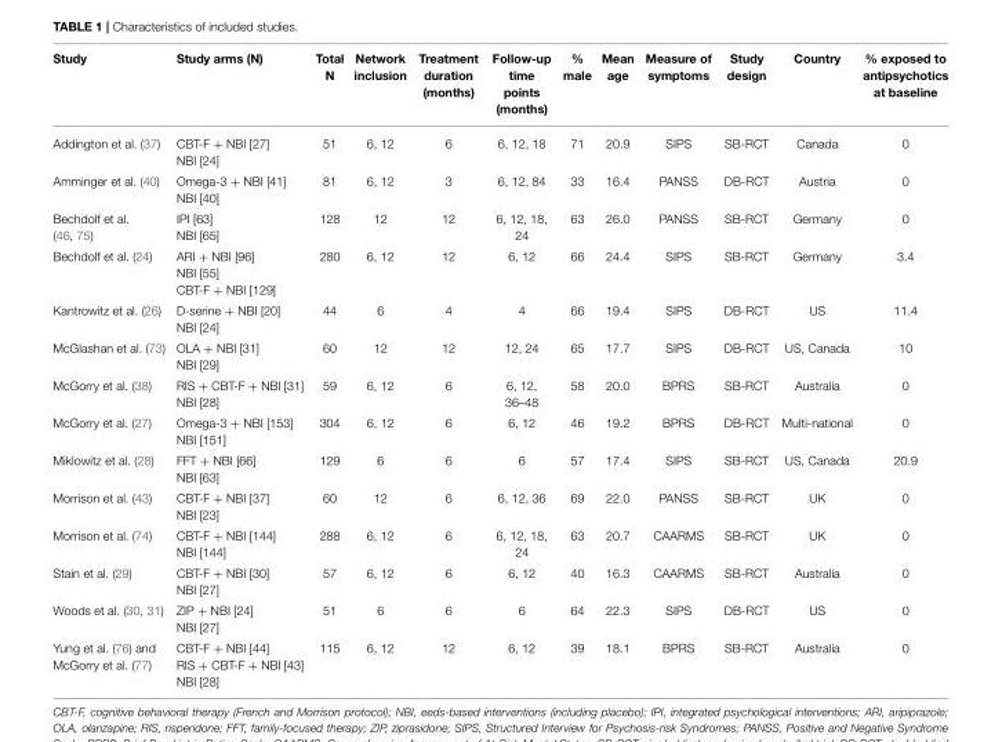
<table><thead><tr><td>Study</td><td>Study arms (N)</td><td>Total N</td><td>Network inclusion</td><td>Treatment duration (months)</td><td>Follow-up time points (months)</td><td>% male</td><td>Mean age</td><td>Measure of symptoms</td><td>Study design</td><td>Country</td><td>% exposed to antipsychotics at baseline</td></tr></thead><tbody><tr><td>Addington et al. (37)</td><td>CBT-F + NBI [27] NBI [24]</td><td>51</td><td>6, 12</td><td>6</td><td>6, 12, 18</td><td>71</td><td>20.9</td><td>SIPS</td><td>SB-RCT</td><td>Canada</td><td>0</td></tr><tr><td>Amminger et al. (40)</td><td>Omega-3 + NBI [41] NBI [40]</td><td>81</td><td>6, 12</td><td>3</td><td>6, 12, 84</td><td>33</td><td>16.4</td><td>PANSS</td><td>DB-RCT</td><td>Austria</td><td>0</td></tr><tr><td>Bechdolf et al. (46, 75)</td><td>IPI [63] NBI [65]</td><td>128</td><td>12</td><td>12</td><td>6, 12, 18, 24</td><td>63</td><td>26.0</td><td>PANSS</td><td>SB-RCT</td><td>Germany</td><td>0</td></tr><tr><td>Bechdolf et al. (24)</td><td>ARI + NBI [96] NBI [55] CBT-F + NBI [129]</td><td>280</td><td>6, 12</td><td>12</td><td>6, 12</td><td>66</td><td>24.4</td><td>SIPS</td><td>SB-RCT</td><td>Germany</td><td>3.4</td></tr><tr><td>Kantrowitz et al. (26)</td><td>D-serine + NBI [20] NBI [24]</td><td>44</td><td>6</td><td>4</td><td>4</td><td>66</td><td>19.4</td><td>SIPS</td><td>DB-RCT</td><td>US</td><td>11.4</td></tr><tr><td>McGlashan et al. (73)</td><td>OLA + NBI [31] NBI [29]</td><td>60</td><td>12</td><td>12</td><td>12, 24</td><td>65</td><td>17.7</td><td>SIPS</td><td>DB-RCT</td><td>US, Canada</td><td>10</td></tr><tr><td>McGorry et al. (38)</td><td>RIS + CBT-F + NBI [31] NBI [28]</td><td>59</td><td>6, 12</td><td>6</td><td>6, 12, 36–48</td><td>58</td><td>20.0</td><td>BPRS</td><td>SB-RCT</td><td>Australia</td><td>0</td></tr><tr><td>McGorry et al. (27)</td><td>Omega-3 + NBI [153] NBI [151]</td><td>304</td><td>6, 12</td><td>6</td><td>6, 12</td><td>46</td><td>19.2</td><td>BPRS</td><td>DB-RCT</td><td>Multi-national</td><td>0</td></tr><tr><td>Miklowitz et al. (28)</td><td>FFT + NBI [66] NBI [63]</td><td>129</td><td>6</td><td>6</td><td>6</td><td>57</td><td>17.4</td><td>SIPS</td><td>SB-RCT</td><td>US, Canada</td><td>20.9</td></tr><tr><td>Morrison et al. (43)</td><td>CBT-F + NBI [37] NBI [23]</td><td>60</td><td>12</td><td>6</td><td>6, 12, 36</td><td>69</td><td>22.0</td><td>PANSS</td><td>SB-RCT</td><td>UK</td><td>0</td></tr><tr><td>Morrison et al. (74)</td><td>CBT-F + NBI [144] NBI [144]</td><td>288</td><td>6, 12</td><td>6</td><td>6, 12, 18, 24</td><td>63</td><td>20.7</td><td>CAARMS</td><td>SB-RCT</td><td>UK</td><td>0</td></tr><tr><td>Stain et al. (29)</td><td>CBT-F + NBI [30] NBI [27]</td><td>57</td><td>6, 12</td><td>6</td><td>6, 12</td><td>40</td><td>16.3</td><td>CAARMS</td><td>SB-RCT</td><td>Australia</td><td>0</td></tr><tr><td>Woods et al. (30, 31)</td><td>ZIP + NBI [24] NBI [27]</td><td>51</td><td>6</td><td>6</td><td>6</td><td>64</td><td>22.3</td><td>SIPS</td><td>DB-RCT</td><td>US</td><td>0</td></tr><tr><td>Yung et al. (76) and McGorry et al. (77)</td><td>CBT-F + NBI [44] RIS + CBT-F + NBI [43] NBI [28]</td><td>115</td><td>6, 12</td><td>12</td><td>6, 12</td><td>39</td><td>18.1</td><td>BPRS</td><td>SB-RCT</td><td>Australia</td><td>0</td></tr></tbody></table>